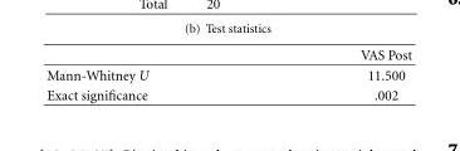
<table><thead><tr><td></td><td>VAS Post</td></tr></thead><tbody><tr><td>Mann-Whitney U</td><td>11.500</td></tr><tr><td>Exact significance</td><td>.002</td></tr></tbody></table>